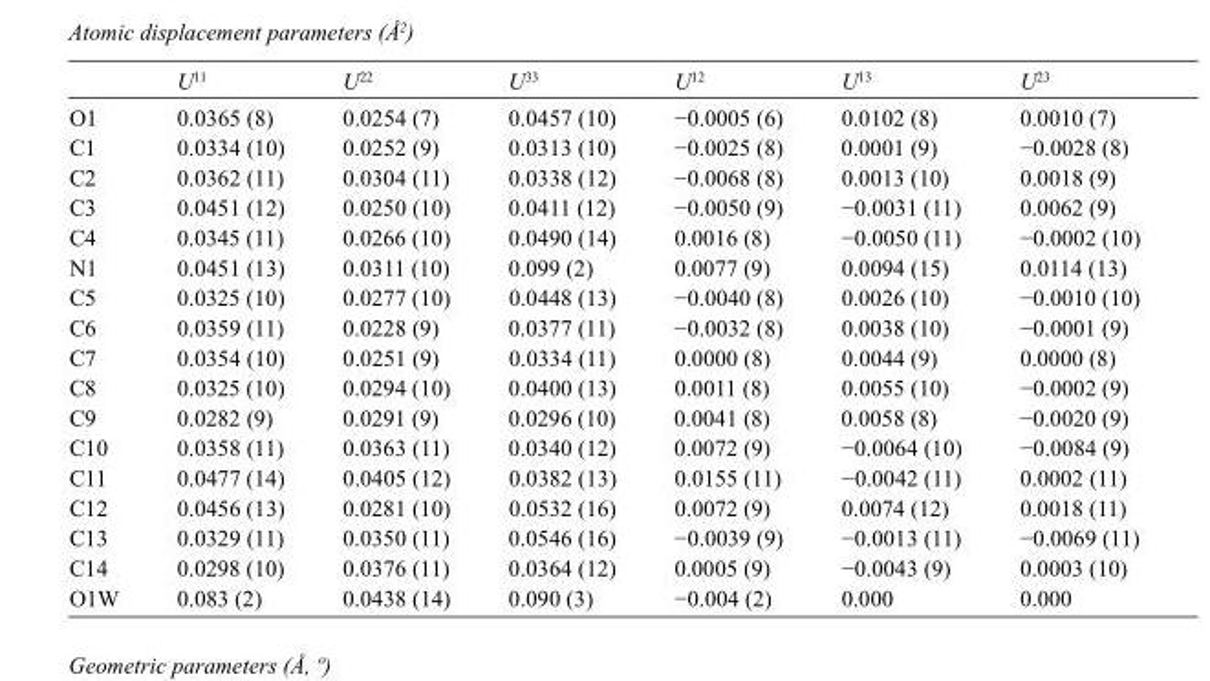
<table><thead><tr><td></td><td>U<sup>11</sup></td><td>U<sup>22</sup></td><td>U<sup>33</sup></td><td>U<sup>12</sup></td><td>U<sup>13</sup></td><td>U<sup>23</sup></td></tr></thead><tbody><tr><td>O1</td><td>0.0365 (8)</td><td>0.0254 (7)</td><td>0.0457 (10)</td><td>−0.0005 (6)</td><td>0.0102 (8)</td><td>0.0010 (7)</td></tr><tr><td>C1</td><td>0.0334 (10)</td><td>0.0252 (9)</td><td>0.0313 (10)</td><td>−0.0025 (8)</td><td>0.0001 (9)</td><td>−0.0028 (8)</td></tr><tr><td>C2</td><td>0.0362 (11)</td><td>0.0304 (11)</td><td>0.0338 (12)</td><td>−0.0068 (8)</td><td>0.0013 (10)</td><td>0.0018 (9)</td></tr><tr><td>C3</td><td>0.0451 (12)</td><td>0.0250 (10)</td><td>0.0411 (12)</td><td>−0.0050 (9)</td><td>−0.0031 (11)</td><td>0.0062 (9)</td></tr><tr><td>C4</td><td>0.0345 (11)</td><td>0.0266 (10)</td><td>0.0490 (14)</td><td>0.0016 (8)</td><td>−0.0050 (11)</td><td>−0.0002 (10)</td></tr><tr><td>N1</td><td>0.0451 (13)</td><td>0.0311 (10)</td><td>0.099 (2)</td><td>0.0077 (9)</td><td>0.0094 (15)</td><td>0.0114 (13)</td></tr><tr><td>C5</td><td>0.0325 (10)</td><td>0.0277 (10)</td><td>0.0448 (13)</td><td>−0.0040 (8)</td><td>0.0026 (10)</td><td>−0.0010 (10)</td></tr><tr><td>C6</td><td>0.0359 (11)</td><td>0.0228 (9)</td><td>0.0377 (11)</td><td>−0.0032 (8)</td><td>0.0038 (10)</td><td>−0.0001 (9)</td></tr><tr><td>C7</td><td>0.0354 (10)</td><td>0.0251 (9)</td><td>0.0334 (11)</td><td>0.0000 (8)</td><td>0.0044 (9)</td><td>0.0000 (8)</td></tr><tr><td>C8</td><td>0.0325 (10)</td><td>0.0294 (10)</td><td>0.0400 (13)</td><td>0.0011 (8)</td><td>0.0055 (10)</td><td>−0.0002 (9)</td></tr><tr><td>C9</td><td>0.0282 (9)</td><td>0.0291 (9)</td><td>0.0296 (10)</td><td>0.0041 (8)</td><td>0.0058 (8)</td><td>−0.0020 (9)</td></tr><tr><td>C10</td><td>0.0358 (11)</td><td>0.0363 (11)</td><td>0.0340 (12)</td><td>0.0072 (9)</td><td>−0.0064 (10)</td><td>−0.0084 (9)</td></tr><tr><td>C11</td><td>0.0477 (14)</td><td>0.0405 (12)</td><td>0.0382 (13)</td><td>0.0155 (11)</td><td>−0.0042 (11)</td><td>0.0002 (11)</td></tr><tr><td>C12</td><td>0.0456 (13)</td><td>0.0281 (10)</td><td>0.0532 (16)</td><td>0.0072 (9)</td><td>0.0074 (12)</td><td>0.0018 (11)</td></tr><tr><td>C13</td><td>0.0329 (11)</td><td>0.0350 (11)</td><td>0.0546 (16)</td><td>−0.0039 (9)</td><td>−0.0013 (11)</td><td>−0.0069 (11)</td></tr><tr><td>C14</td><td>0.0298 (10)</td><td>0.0376 (11)</td><td>0.0364 (12)</td><td>0.0005 (9)</td><td>−0.0043 (9)</td><td>0.0003 (10)</td></tr><tr><td>O1W</td><td>0.083 (2)</td><td>0.0438 (14)</td><td>0.090 (3)</td><td>−0.004 (2)</td><td>0.000</td><td>0.000</td></tr></tbody></table>